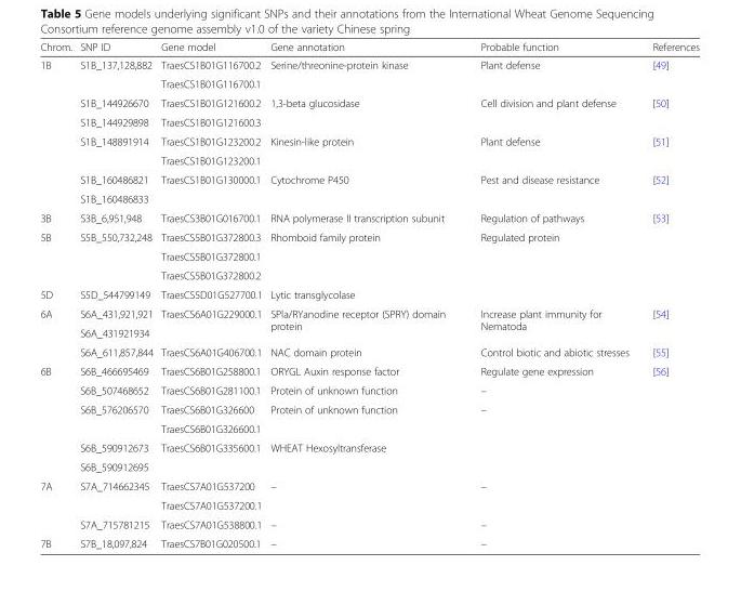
<table><thead><tr><td>Chrom.</td><td>SNP ID</td><td>Gene model</td><td>Gene annotation</td><td>Probable function</td><td>References</td></tr></thead><tbody><tr><td rowspan="8">1B</td><td rowspan="2">S1B_137,128,882</td><td>TraesCS1B01G116700.2</td><td rowspan="2">Serine/threonine-protein kinase</td><td rowspan="2">Plant defense</td><td rowspan="2">[49]</td></tr><tr><td>TraesCS1B01G116700.1</td></tr><tr><td>S1B_144926670</td><td>TraesCS1B01G121600.2</td><td rowspan="2">1,3-beta glucosidase</td><td rowspan="2">Cell division and plant defense</td><td rowspan="2">[50]</td></tr><tr><td>S1B_144929898</td><td>TraesCS1B01G121600.3</td></tr><tr><td rowspan="2">S1B_148891914</td><td>TraesCS1B01G123200.2</td><td rowspan="2">Kinesin-like protein</td><td rowspan="2">Plant defense</td><td rowspan="2">[51]</td></tr><tr><td>TraesCS1B01G123200.1</td></tr><tr><td>S1B_160486821</td><td rowspan="2">TraesCS1B01G130000.1</td><td rowspan="2">Cytochrome P450</td><td rowspan="2">Pest and disease resistance</td><td rowspan="2">[52]</td></tr><tr><td>S1B_160486833</td></tr><tr><td>3B</td><td>S3B_6,951,948</td><td>TraesCS3B01G016700.1</td><td>RNA polymerase II transcription subunit</td><td>Regulation of pathways</td><td>[53]</td></tr><tr><td rowspan="3">5B</td><td rowspan="3">S5B_550,732,248</td><td>TraesCS5B01G372800.3</td><td rowspan="3">Rhomboid family protein</td><td rowspan="3">Regulated protein</td><td rowspan="3"></td></tr><tr><td>TraesCS5B01G372800.1</td></tr><tr><td>TraesCS5B01G372800.2</td></tr><tr><td>5D</td><td>S5D_544799149</td><td>TraesCS5D01G527700.1</td><td>Lytic transglycolase</td><td></td><td></td></tr><tr><td rowspan="3">6A</td><td>S6A_431,921,921</td><td rowspan="2">TraesCS6A01G229000.1</td><td rowspan="2">SPla/RYanodine receptor (SPRY) domain protein</td><td rowspan="2">Increase plant immunity for Nematoda</td><td rowspan="2">[54]</td></tr><tr><td>S6A_431921934</td></tr><tr><td>S6A_611,857,844</td><td>TraesCS6A01G406700.1</td><td>NAC domain protein</td><td>Control biotic and abiotic stresses</td><td>[55]</td></tr><tr><td rowspan="6">6B</td><td>S6B_466695469</td><td>TraesCS6B01G258800.1</td><td>ORYGL Auxin response factor</td><td>Regulate gene expression</td><td>[56]</td></tr><tr><td>S6B_507468652</td><td>TraesCS6B01G281100.1</td><td>Protein of unknown function</td><td>–</td><td></td></tr><tr><td rowspan="2">S6B_576206570</td><td>TraesCS6B01G326600</td><td rowspan="2">Protein of unknown function</td><td rowspan="2">–</td><td rowspan="2"></td></tr><tr><td>TraesCS6B01G326600.1</td></tr><tr><td>S6B_590912673</td><td rowspan="2">TraesCS6B01G335600.1</td><td rowspan="2">WHEAT Hexosyltransferase</td><td rowspan="2"></td><td rowspan="2"></td></tr><tr><td>S6B_590912695</td></tr><tr><td rowspan="3">7A</td><td rowspan="2">S7A_714662345</td><td>TraesCS7A01G537200</td><td rowspan="2">–</td><td rowspan="2">–</td><td rowspan="3"></td></tr><tr><td>TraesCS7A01G537200.1</td></tr><tr><td>S7A_715781215</td><td>TraesCS7A01G538800.1</td><td>–</td><td>–</td></tr><tr><td>7B</td><td>S7B_18,097,824</td><td>TraesCS7B01G020500.1</td><td>–</td><td>–</td><td></td></tr></tbody></table>